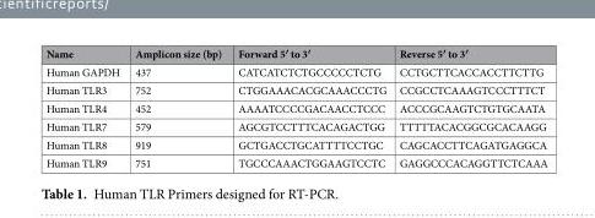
<table><thead><tr><td>Name</td><td>Amplicon size (bp)</td><td>Forward 5′ to 3′</td><td>Reverse 5′ to 3′</td></tr></thead><tbody><tr><td>Human GAPDH</td><td>437</td><td>CATCATCTCTGCCCCCTCTG</td><td>CCTGCTTCACCACCTTCTTG</td></tr><tr><td>Human TLR3</td><td>752</td><td>CTGGAAACACGCAAACCCTG</td><td>CCGCCTCAAAGTCCCTTTCT</td></tr><tr><td>Human TLR4</td><td>452</td><td>AAAATCCCCGACAACCTCCC</td><td>ACCCGCAAGTCTGTGCAATA</td></tr><tr><td>Human TLR7</td><td>579</td><td>AGCGTCCTTTCACAGACTGG</td><td>TTTTTACACGGCGCACAAGG</td></tr><tr><td>Human TLR8</td><td>919</td><td>GCTGACCTGCATTTTCCTGC</td><td>CAGCACCTTCAGATGAGGCA</td></tr><tr><td>Human TLR9</td><td>751</td><td>TGCCCAAACTGGAAGTCCTC</td><td>GAGGCCCACAGGTTCTCAAA</td></tr></tbody></table>